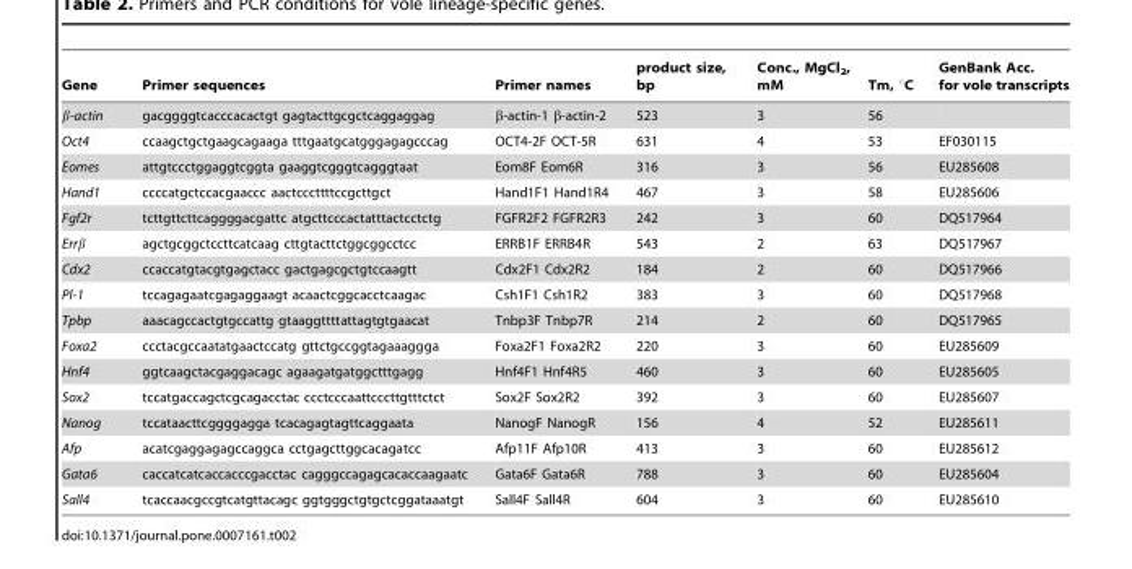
<table><thead><tr><td>Gene</td><td>Primer sequences</td><td>Primer names</td><td>product size, bp</td><td>Conc., MgCl<sub>2</sub>, mM</td><td>Tm, °C</td><td>GenBank Acc. for vole transcripts</td></tr></thead><tbody><tr><td>β-actin</td><td>gacggggtcacccacactgt gagtacttgcgctcaggaggag</td><td>β-actin-1 β-actin-2</td><td>523</td><td>3</td><td>56</td><td></td></tr><tr><td>Oct4</td><td>ccaagctgctgaagcagaaga tttgaatgcatgggagagcccag</td><td>OCT4-2F OCT-5R</td><td>631</td><td>4</td><td>53</td><td>EF030115</td></tr><tr><td>Eomes</td><td>attgtccctggaggtcggta gaaggtcgggtcagggtaat</td><td>Eom8F Eom6R</td><td>316</td><td>3</td><td>56</td><td>EU285608</td></tr><tr><td>Hand1</td><td>ccccatgctccacgaaccc aactcccttttccgcttgct</td><td>Hand1F1 Hand1R4</td><td>467</td><td>3</td><td>58</td><td>EU285606</td></tr><tr><td>Fgf2r</td><td>tcttgttcttcaggggacgattc atgcttcccactatttactcctctg</td><td>FGFR2F2 FGFR2R3</td><td>242</td><td>3</td><td>60</td><td>DQ517964</td></tr><tr><td>Errβ</td><td>agctgcggctccttcatcaag cttgtacttctggcggcctcc</td><td>ERRB1F ERRB4R</td><td>543</td><td>2</td><td>63</td><td>DQ517967</td></tr><tr><td>Cdx2</td><td>ccaccatgtacgtgagctacc gactgagcgctgtccaagtt</td><td>Cdx2F1 Cdx2R2</td><td>184</td><td>2</td><td>60</td><td>DQ517966</td></tr><tr><td>Pl-1</td><td>tccagagaatcgagaggaagt acaactcggcacctcaagac</td><td>Csh1F1 Csh1R2</td><td>383</td><td>3</td><td>60</td><td>DQ517968</td></tr><tr><td>Tpbp</td><td>aaacagccactgtgccattg gtaaggttttattagtgtgaacat</td><td>Tnbp3F Tnbp7R</td><td>214</td><td>2</td><td>60</td><td>DQ517965</td></tr><tr><td>Foxa2</td><td>ccctacgccaatatgaactccatg gttctgccggtagaaaggga</td><td>Foxa2F1 Foxa2R2</td><td>220</td><td>3</td><td>60</td><td>EU285609</td></tr><tr><td>Hnf4</td><td>ggtcaagctacgaggacagc agaagatgatggctttgagg</td><td>Hnf4F1 Hnf4R5</td><td>460</td><td>3</td><td>60</td><td>EU285605</td></tr><tr><td>Sox2</td><td>tccatgaccagctcgcagacctac ccctcccaattcccttgtttctct</td><td>Sox2F Sox2R2</td><td>392</td><td>3</td><td>60</td><td>EU285607</td></tr><tr><td>Nanog</td><td>tccataacttcggggagga tcacagagtagttcaggaata</td><td>NanogF NanogR</td><td>156</td><td>4</td><td>52</td><td>EU285611</td></tr><tr><td>Afp</td><td>acatcgaggagagccaggca cctgagcttggcacagatcc</td><td>Afp11F Afp10R</td><td>413</td><td>3</td><td>60</td><td>EU285612</td></tr><tr><td>Gata6</td><td>caccatcatcaccacccgacctac cagggccagagcacaccaagaatc</td><td>Gata6F Gata6R</td><td>788</td><td>3</td><td>60</td><td>EU285604</td></tr><tr><td>Sall4</td><td>tcaccaacgccgtcatgttacagc ggtgggctgtgctcggataaatgt</td><td>Sall4F Sall4R</td><td>604</td><td>3</td><td>60</td><td>EU285610</td></tr></tbody></table>